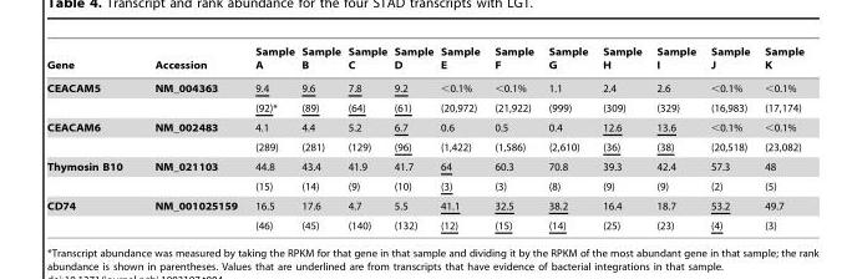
<table><thead><tr><td>Gene</td><td>Accession</td><td>Sample A</td><td>Sample B</td><td>Sample C</td><td>Sample D</td><td>Sample E</td><td>Sample F</td><td>Sample G</td><td>Sample H</td><td>Sample I</td><td>Sample J</td><td>Sample K</td></tr></thead><tbody><tr><td rowspan="2">CEACAM5</td><td>NM_004363</td><td>9.4</td><td>9.6</td><td>7.8</td><td>9.2</td><td>&lt;0.1%</td><td>&lt;0.1%</td><td>1.1</td><td>2.4</td><td>2.6</td><td>&lt;0.1%</td><td>&lt;0.1%</td></tr><tr><td></td><td>(92)*</td><td>(89)</td><td>(64)</td><td>(61)</td><td>(20,972)</td><td>(21,922)</td><td>(999)</td><td>(309)</td><td>(329)</td><td>(16,983)</td><td>(17,174)</td></tr><tr><td rowspan="2">CEACAM6</td><td>NM_002483</td><td>4.1</td><td>4.4</td><td>5.2</td><td>6.7</td><td>0.6</td><td>0.5</td><td>0.4</td><td>12.6</td><td>13.6</td><td>&lt;0.1%</td><td>&lt;0.1%</td></tr><tr><td></td><td>(289)</td><td>(281)</td><td>(129)</td><td>(96)</td><td>(1,422)</td><td>(1,586)</td><td>(2,610)</td><td>(36)</td><td>(38)</td><td>(20,518)</td><td>(23,082)</td></tr><tr><td rowspan="2">Thymosin B10</td><td>NM_021103</td><td>44.8</td><td>43.4</td><td>41.9</td><td>41.7</td><td>64</td><td>60.3</td><td>70.8</td><td>39.3</td><td>42.4</td><td>57.3</td><td>48</td></tr><tr><td></td><td>(15)</td><td>(14)</td><td>(9)</td><td>(10)</td><td>(3)</td><td>(3)</td><td>(8)</td><td>(9)</td><td>(9)</td><td>(2)</td><td>(5)</td></tr><tr><td rowspan="2">CD74</td><td>NM_001025159</td><td>16.5</td><td>17.6</td><td>4.7</td><td>5.5</td><td>41.1</td><td>32.5</td><td>38.2</td><td>16.4</td><td>18.7</td><td>53.2</td><td>49.7</td></tr><tr><td></td><td>(46)</td><td>(45)</td><td>(140)</td><td>(132)</td><td>(12)</td><td>(15)</td><td>(14)</td><td>(25)</td><td>(23)</td><td>(4)</td><td>(3)</td></tr></tbody></table>